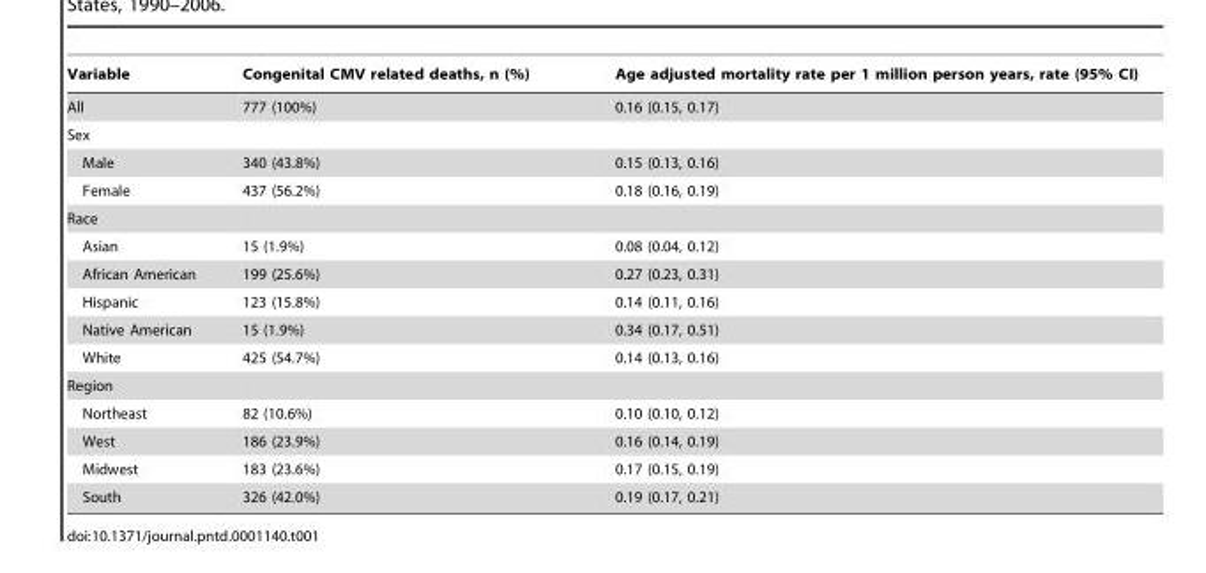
<table><thead><tr><td>Variable</td><td>Congenital CMV related deaths, n (%)</td><td>Age adjusted mortality rate per 1 million person years, rate (95% CI)</td></tr></thead><tbody><tr><td>All</td><td>777 (100%)</td><td>0.16 (0.15, 0.17)</td></tr><tr><td colspan="3">Sex</td></tr><tr><td>Male</td><td>340 (43.8%)</td><td>0.15 (0.13, 0.16)</td></tr><tr><td>Female</td><td>437 (56.2%)</td><td>0.18 (0.16, 0.19)</td></tr><tr><td colspan="3">Race</td></tr><tr><td>Asian</td><td>15 (1.9%)</td><td>0.08 (0.04, 0.12)</td></tr><tr><td>African American</td><td>199 (25.6%)</td><td>0.27 (0.23, 0.31)</td></tr><tr><td>Hispanic</td><td>123 (15.8%)</td><td>0.14 (0.11, 0.16)</td></tr><tr><td>Native American</td><td>15 (1.9%)</td><td>0.34 (0.17, 0.51)</td></tr><tr><td>White</td><td>425 (54.7%)</td><td>0.14 (0.13, 0.16)</td></tr><tr><td colspan="3">Region</td></tr><tr><td>Northeast</td><td>82 (10.6%)</td><td>0.10 (0.10, 0.12)</td></tr><tr><td>West</td><td>186 (23.9%)</td><td>0.16 (0.14, 0.19)</td></tr><tr><td>Midwest</td><td>183 (23.6%)</td><td>0.17 (0.15, 0.19)</td></tr><tr><td>South</td><td>326 (42.0%)</td><td>0.19 (0.17, 0.21)</td></tr></tbody></table>